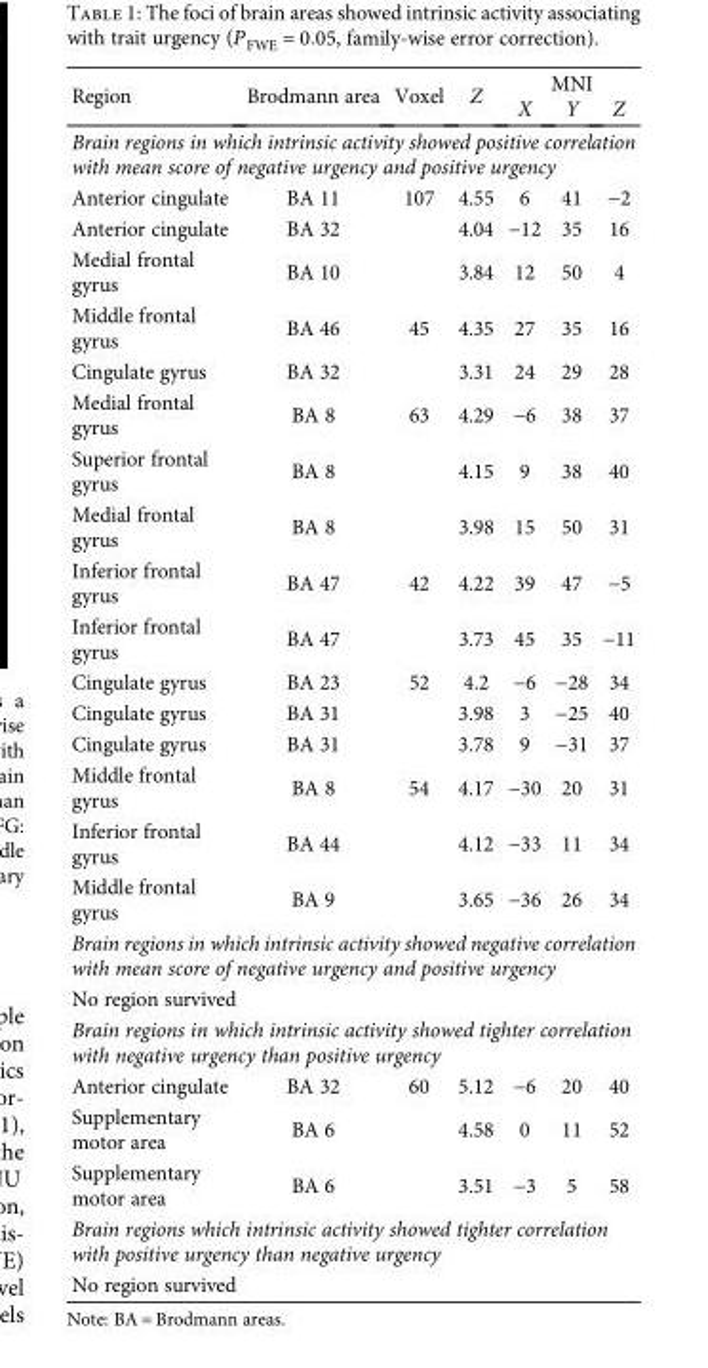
<table><thead><tr><td rowspan="2">Region</td><td rowspan="2">Brodmann area</td><td rowspan="2">Voxel</td><td rowspan="2">Z</td><td colspan="3">MNI</td></tr><tr><td>X</td><td>Y</td><td>Z</td></tr></thead><tbody><tr><td colspan="7">Brain regions in which intrinsic activity showed positive correlation with mean score of negative urgency and positive urgency</td></tr><tr><td>Anterior cingulate</td><td>BA 11</td><td>107</td><td>4.55</td><td>6</td><td>41</td><td>−2</td></tr><tr><td>Anterior cingulate</td><td>BA 32</td><td></td><td>4.04</td><td>−12</td><td>35</td><td>16</td></tr><tr><td>Medial frontal gyrus</td><td>BA 10</td><td></td><td>3.84</td><td>12</td><td>50</td><td>4</td></tr><tr><td>Middle frontal gyrus</td><td>BA 46</td><td>45</td><td>4.35</td><td>27</td><td>35</td><td>16</td></tr><tr><td>Cingulate gyrus</td><td>BA 32</td><td></td><td>3.31</td><td>24</td><td>29</td><td>28</td></tr><tr><td>Medial frontal gyrus</td><td>BA 8</td><td>63</td><td>4.29</td><td>−6</td><td>38</td><td>37</td></tr><tr><td>Superior frontal gyrus</td><td>BA 8</td><td></td><td>4.15</td><td>9</td><td>38</td><td>40</td></tr><tr><td>Medial frontal gyrus</td><td>BA 8</td><td></td><td>3.98</td><td>15</td><td>50</td><td>31</td></tr><tr><td>Inferior frontal gyrus</td><td>BA 47</td><td>42</td><td>4.22</td><td>39</td><td>47</td><td>−5</td></tr><tr><td>Inferior frontal gyrus</td><td>BA 47</td><td></td><td>3.73</td><td>45</td><td>35</td><td>−11</td></tr><tr><td>Cingulate gyrus</td><td>BA 23</td><td>52</td><td>4.2</td><td>−6</td><td>−28</td><td>34</td></tr><tr><td>Cingulate gyrus</td><td>BA 31</td><td></td><td>3.98</td><td>3</td><td>−25</td><td>40</td></tr><tr><td>Cingulate gyrus</td><td>BA 31</td><td></td><td>3.78</td><td>9</td><td>−31</td><td>37</td></tr><tr><td>Middle frontal gyrus</td><td>BA 8</td><td>54</td><td>4.17</td><td>−30</td><td>20</td><td>31</td></tr><tr><td>Inferior frontal gyrus</td><td>BA 44</td><td></td><td>4.12</td><td>−33</td><td>11</td><td>34</td></tr><tr><td>Middle frontal gyrus</td><td>BA 9</td><td></td><td>3.65</td><td>−36</td><td>26</td><td>34</td></tr><tr><td colspan="7">Brain regions in which intrinsic activity showed negative correlation with mean score of negative urgency and positive urgency</td></tr><tr><td colspan="7">No region survived</td></tr><tr><td colspan="7">Brain regions in which intrinsic activity showed tighter correlation with negative urgency than positive urgency</td></tr><tr><td>Anterior cingulate</td><td>BA 32</td><td>60</td><td>5.12</td><td>−6</td><td>20</td><td>40</td></tr><tr><td>Supplementary motor area</td><td>BA 6</td><td></td><td>4.58</td><td>0</td><td>11</td><td>52</td></tr><tr><td>Supplementary motor area</td><td>BA 6</td><td></td><td>3.51</td><td>−3</td><td>5</td><td>58</td></tr><tr><td colspan="7">Brain regions which intrinsic activity showed tighter correlation with positive urgency than negative urgency</td></tr><tr><td colspan="7">No region survived</td></tr></tbody></table>